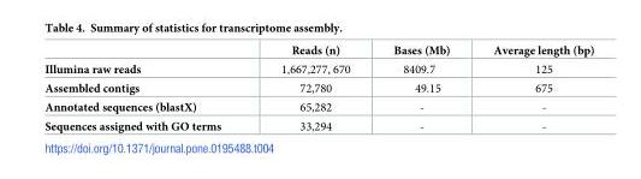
<table><thead><tr><td></td><td>Reads (n)</td><td>Bases (Mb)</td><td>Average length (bp)</td></tr></thead><tbody><tr><td>Illumina raw reads</td><td>1,667,277, 670</td><td>8409.7</td><td>125</td></tr><tr><td>Assembled contigs</td><td>72,780</td><td>49.15</td><td>675</td></tr><tr><td>Annotated sequences (blastX)</td><td>65,282</td><td>-</td><td>-</td></tr><tr><td>Sequences assigned with GO terms</td><td>33,294</td><td>-</td><td>-</td></tr></tbody></table>